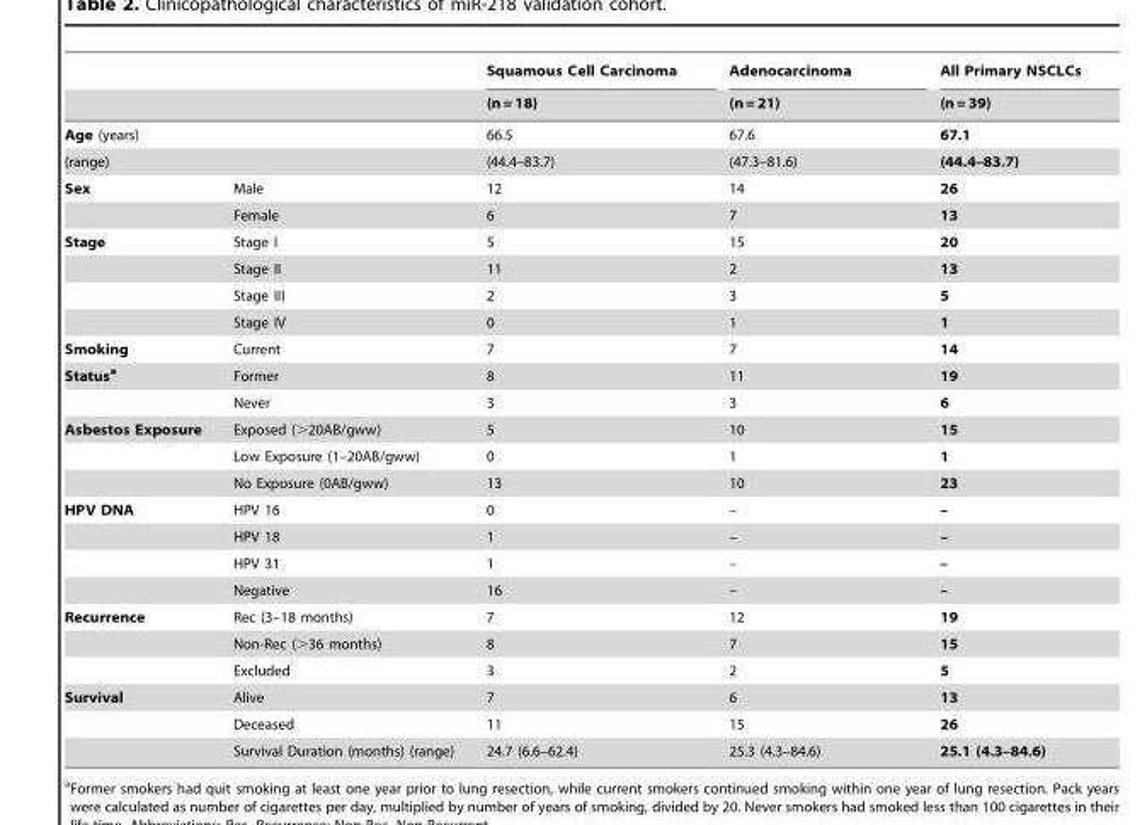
<table><thead><tr><td rowspan="2"></td><td rowspan="2"></td><td rowspan="2">Squamous Cell Carcinoma (n = 18)</td><td rowspan="2">Adenocarcinoma (n = 21)</td><td rowspan="2">All Primary NSCLCs (n = 39)</td></tr><tr></tr></thead><tbody><tr><td colspan="2">Age (years)</td><td>66.5</td><td>67.6</td><td>67.1</td></tr><tr><td colspan="2">(range)</td><td>(44.4–83.7)</td><td>(47.3–81.6)</td><td>(44.4–83.7)</td></tr><tr><td rowspan="2">Sex</td><td>Male</td><td>12</td><td>14</td><td>26</td></tr><tr><td>Female</td><td>6</td><td>7</td><td>13</td></tr><tr><td rowspan="4">Stage</td><td>Stage I</td><td>5</td><td>15</td><td>20</td></tr><tr><td>Stage II</td><td>11</td><td>2</td><td>13</td></tr><tr><td>Stage III</td><td>2</td><td>3</td><td>5</td></tr><tr><td>Stage IV</td><td>0</td><td>1</td><td>1</td></tr><tr><td>Smoking</td><td>Current</td><td>7</td><td>7</td><td>14</td></tr><tr><td rowspan="2">Statusa</td><td>Former</td><td>8</td><td>11</td><td>19</td></tr><tr><td>Never</td><td>3</td><td>3</td><td>6</td></tr><tr><td rowspan="3">Asbestos Exposure</td><td>Exposed (&gt;20AB/gww)</td><td>5</td><td>10</td><td>15</td></tr><tr><td>Low Exposure (1–20AB/gww)</td><td>0</td><td>1</td><td>1</td></tr><tr><td>No Exposure (0AB/gww)</td><td>13</td><td>10</td><td>23</td></tr><tr><td rowspan="4">HPV DNA</td><td>HPV 16</td><td>0</td><td>–</td><td>–</td></tr><tr><td>HPV 18</td><td>1</td><td>–</td><td>–</td></tr><tr><td>HPV 31</td><td>1</td><td>–</td><td>–</td></tr><tr><td>Negative</td><td>16</td><td>–</td><td>–</td></tr><tr><td rowspan="3">Recurrence</td><td>Rec (3–18 months)</td><td>7</td><td>12</td><td>19</td></tr><tr><td>Non-Rec (&gt;36 months)</td><td>8</td><td>7</td><td>15</td></tr><tr><td>Excluded</td><td>3</td><td>2</td><td>5</td></tr><tr><td rowspan="3">Survival</td><td>Alive</td><td>7</td><td>6</td><td>13</td></tr><tr><td>Deceased</td><td>11</td><td>15</td><td>26</td></tr><tr><td>Survival Duration (months) (range)</td><td>24.7 (6.6–62.4)</td><td>25.3 (4.3–84.6)</td><td>25.1 (4.3–84.6)</td></tr></tbody></table>